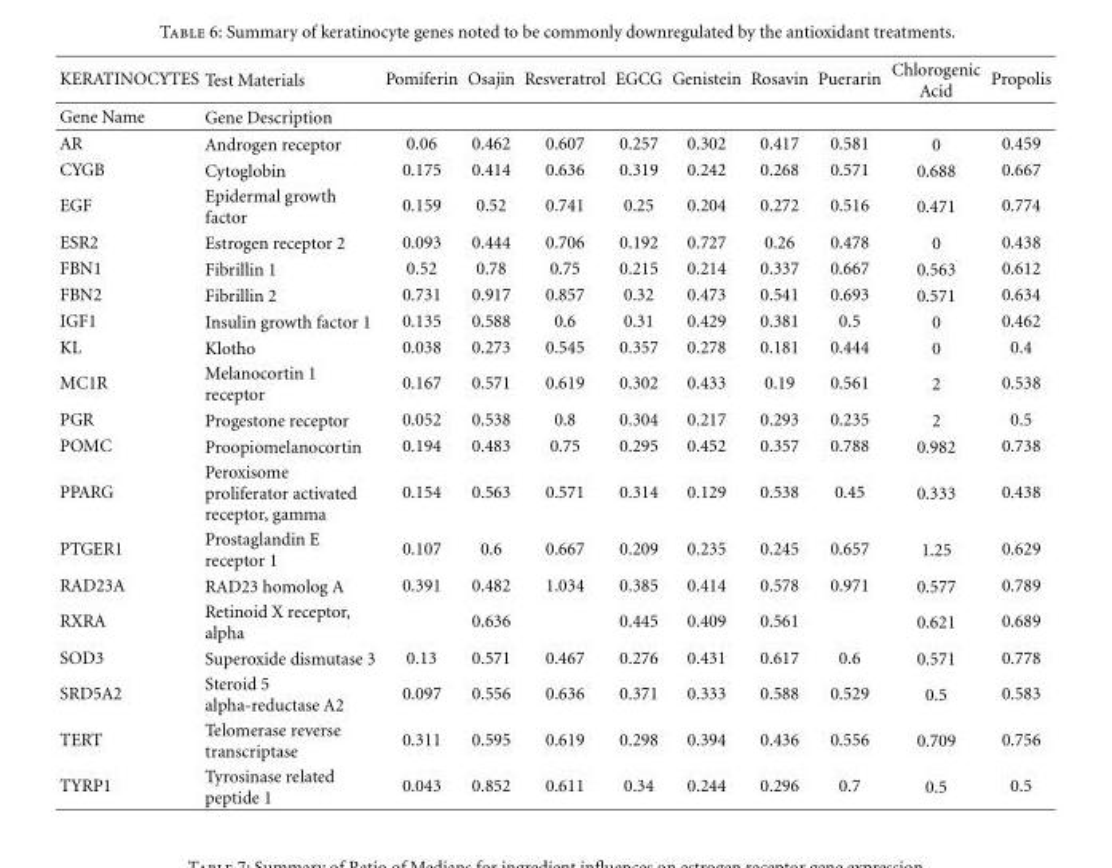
<table><thead><tr><td>KERATINOCYTES</td><td>Test Materials</td><td>Pomiferin</td><td>Osajin</td><td>Resveratrol</td><td>EGCG</td><td>Genistein</td><td>Rosavin</td><td>Puerarin</td><td>Chlorogenic Acid</td><td>Propolis</td></tr></thead><tbody><tr><td>Gene Name</td><td>Gene Description</td><td></td><td></td><td></td><td></td><td></td><td></td><td></td><td></td><td></td></tr><tr><td>AR</td><td>Androgen receptor</td><td>0.06</td><td>0.462</td><td>0.607</td><td>0.257</td><td>0.302</td><td>0.417</td><td>0.581</td><td>0</td><td>0.459</td></tr><tr><td>CYGB</td><td>Cytoglobin</td><td>0.175</td><td>0.414</td><td>0.636</td><td>0.319</td><td>0.242</td><td>0.268</td><td>0.571</td><td>0.688</td><td>0.667</td></tr><tr><td>EGF</td><td>Epidermal growth factor</td><td>0.159</td><td>0.52</td><td>0.741</td><td>0.25</td><td>0.204</td><td>0.272</td><td>0.516</td><td>0.471</td><td>0.774</td></tr><tr><td>ESR2</td><td>Estrogen receptor 2</td><td>0.093</td><td>0.444</td><td>0.706</td><td>0.192</td><td>0.727</td><td>0.26</td><td>0.478</td><td>0</td><td>0.438</td></tr><tr><td>FBN1</td><td>Fibrillin 1</td><td>0.52</td><td>0.78</td><td>0.75</td><td>0.215</td><td>0.214</td><td>0.337</td><td>0.667</td><td>0.563</td><td>0.612</td></tr><tr><td>FBN2</td><td>Fibrillin 2</td><td>0.731</td><td>0.917</td><td>0.857</td><td>0.32</td><td>0.473</td><td>0.541</td><td>0.693</td><td>0.571</td><td>0.634</td></tr><tr><td>IGF1</td><td>Insulin growth factor 1</td><td>0.135</td><td>0.588</td><td>0.6</td><td>0.31</td><td>0.429</td><td>0.381</td><td>0.5</td><td>0</td><td>0.462</td></tr><tr><td>KL</td><td>Klotho</td><td>0.038</td><td>0.273</td><td>0.545</td><td>0.357</td><td>0.278</td><td>0.181</td><td>0.444</td><td>0</td><td>0.4</td></tr><tr><td>MC1R</td><td>Melanocortin 1 receptor</td><td>0.167</td><td>0.571</td><td>0.619</td><td>0.302</td><td>0.433</td><td>0.19</td><td>0.561</td><td>2</td><td>0.538</td></tr><tr><td>PGR</td><td>Progestone receptor</td><td>0.052</td><td>0.538</td><td>0.8</td><td>0.304</td><td>0.217</td><td>0.293</td><td>0.235</td><td>2</td><td>0.5</td></tr><tr><td>POMC</td><td>Proopiomelanocortin</td><td>0.194</td><td>0.483</td><td>0.75</td><td>0.295</td><td>0.452</td><td>0.357</td><td>0.788</td><td>0.982</td><td>0.738</td></tr><tr><td>PPARG</td><td>Peroxisome proliferator activated receptor, gamma</td><td>0.154</td><td>0.563</td><td>0.571</td><td>0.314</td><td>0.129</td><td>0.538</td><td>0.45</td><td>0.333</td><td>0.438</td></tr><tr><td>PTGER1</td><td>Prostaglandin E receptor 1</td><td>0.107</td><td>0.6</td><td>0.667</td><td>0.209</td><td>0.235</td><td>0.245</td><td>0.657</td><td>1.25</td><td>0.629</td></tr><tr><td>RAD23A</td><td>RAD23 homolog A</td><td>0.391</td><td>0.482</td><td>1.034</td><td>0.385</td><td>0.414</td><td>0.578</td><td>0.971</td><td>0.577</td><td>0.789</td></tr><tr><td>RXRA</td><td>Retinoid X receptor, alpha</td><td></td><td>0.636</td><td></td><td>0.445</td><td>0.409</td><td>0.561</td><td></td><td>0.621</td><td>0.689</td></tr><tr><td>SOD3</td><td>Superoxide dismutase 3</td><td>0.13</td><td>0.571</td><td>0.467</td><td>0.276</td><td>0.431</td><td>0.617</td><td>0.6</td><td>0.571</td><td>0.778</td></tr><tr><td>SRD5A2</td><td>Steroid 5 alpha-reductase A2</td><td>0.097</td><td>0.556</td><td>0.636</td><td>0.371</td><td>0.333</td><td>0.588</td><td>0.529</td><td>0.5</td><td>0.583</td></tr><tr><td>TERT</td><td>Telomerase reverse transcriptase</td><td>0.311</td><td>0.595</td><td>0.619</td><td>0.298</td><td>0.394</td><td>0.436</td><td>0.556</td><td>0.709</td><td>0.756</td></tr><tr><td>TYRP1</td><td>Tyrosinase related peptide 1</td><td>0.043</td><td>0.852</td><td>0.611</td><td>0.34</td><td>0.244</td><td>0.296</td><td>0.7</td><td>0.5</td><td>0.5</td></tr></tbody></table>